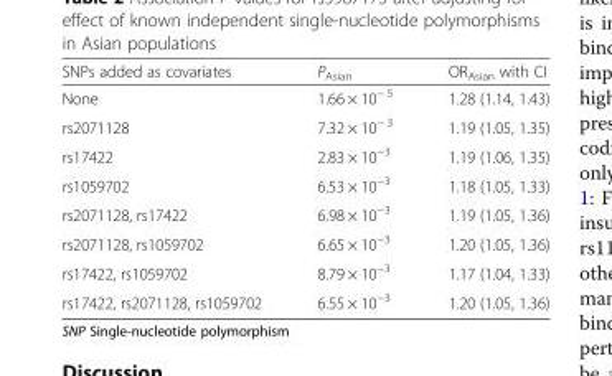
<table><thead><tr><td>SNPs added as covariates</td><td>P<sub>Asian</sub></td><td>OR<sub>Asian</sub> with CI</td></tr></thead><tbody><tr><td>None</td><td>1.66 × 10<sup>− 5</sup></td><td>1.28 (1.14, 1.43)</td></tr><tr><td>rs2071128</td><td>7.32 × 10<sup>− 3</sup></td><td>1.19 (1.05, 1.35)</td></tr><tr><td>rs17422</td><td>2.83 × 10<sup>−3</sup></td><td>1.19 (1.06, 1.35)</td></tr><tr><td>rs1059702</td><td>6.53 × 10<sup>−3</sup></td><td>1.18 (1.05, 1.33)</td></tr><tr><td>rs2071128, rs17422</td><td>6.98 × 10<sup>−3</sup></td><td>1.19 (1.05, 1.36)</td></tr><tr><td>rs2071128, rs1059702</td><td>6.65 × 10<sup>−3</sup></td><td>1.20 (1.05, 1.36)</td></tr><tr><td>rs17422, rs1059702</td><td>8.79 × 10<sup>−3</sup></td><td>1.17 (1.04, 1.33)</td></tr><tr><td>rs17422, rs2071128, rs1059702</td><td>6.55 × 10<sup>−3</sup></td><td>1.20 (1.05, 1.36)</td></tr></tbody></table>